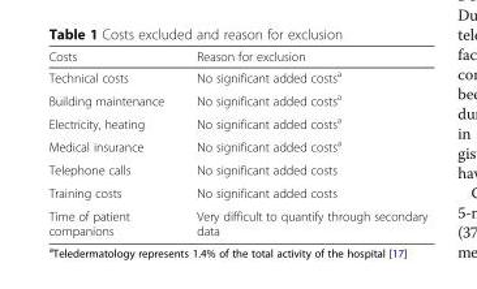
<table><thead><tr><td>Costs</td><td>Reason for exclusion</td></tr></thead><tbody><tr><td>Technical costs</td><td>No significant added costs<sup>a</sup></td></tr><tr><td>Building maintenance</td><td>No significant added costs<sup>a</sup></td></tr><tr><td>Electricity, heating</td><td>No significant added costs<sup>a</sup></td></tr><tr><td>Medical insurance</td><td>No significant added costs<sup>a</sup></td></tr><tr><td>Telephone calls</td><td>No significant added costs</td></tr><tr><td>Training costs</td><td>No significant added costs</td></tr><tr><td>Time of patient companions</td><td>Very difficult to quantify through secondary data</td></tr></tbody></table>